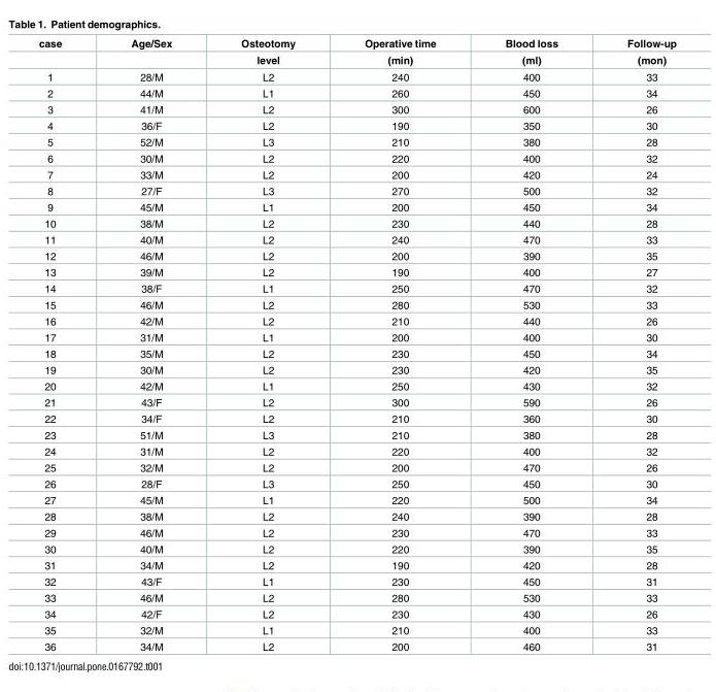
<table><thead><tr><td rowspan="2">case</td><td rowspan="2">Age/Sex</td><td rowspan="2">Osteotomy level</td><td rowspan="2">Operative time (min)</td><td rowspan="2">Blood loss (ml)</td><td rowspan="2">Follow-up (mon)</td></tr><tr></tr></thead><tbody><tr><td>1</td><td>28/M</td><td>L2</td><td>240</td><td>400</td><td>33</td></tr><tr><td>2</td><td>44/M</td><td>L1</td><td>260</td><td>450</td><td>34</td></tr><tr><td>3</td><td>41/M</td><td>L2</td><td>300</td><td>600</td><td>26</td></tr><tr><td>4</td><td>36/F</td><td>L2</td><td>190</td><td>350</td><td>30</td></tr><tr><td>5</td><td>52/M</td><td>L3</td><td>210</td><td>380</td><td>28</td></tr><tr><td>6</td><td>30/M</td><td>L2</td><td>220</td><td>400</td><td>32</td></tr><tr><td>7</td><td>33/M</td><td>L2</td><td>200</td><td>420</td><td>24</td></tr><tr><td>8</td><td>27/F</td><td>L3</td><td>270</td><td>500</td><td>32</td></tr><tr><td>9</td><td>45/M</td><td>L1</td><td>200</td><td>450</td><td>34</td></tr><tr><td>10</td><td>38/M</td><td>L2</td><td>230</td><td>440</td><td>28</td></tr><tr><td>11</td><td>40/M</td><td>L2</td><td>240</td><td>470</td><td>33</td></tr><tr><td>12</td><td>46/M</td><td>L2</td><td>200</td><td>390</td><td>35</td></tr><tr><td>13</td><td>39/M</td><td>L2</td><td>190</td><td>400</td><td>27</td></tr><tr><td>14</td><td>38/F</td><td>L1</td><td>250</td><td>470</td><td>32</td></tr><tr><td>15</td><td>46/M</td><td>L2</td><td>280</td><td>530</td><td>33</td></tr><tr><td>16</td><td>42/M</td><td>L2</td><td>210</td><td>440</td><td>26</td></tr><tr><td>17</td><td>31/M</td><td>L1</td><td>200</td><td>400</td><td>30</td></tr><tr><td>18</td><td>35/M</td><td>L2</td><td>230</td><td>450</td><td>34</td></tr><tr><td>19</td><td>30/M</td><td>L2</td><td>230</td><td>420</td><td>35</td></tr><tr><td>20</td><td>42/M</td><td>L1</td><td>250</td><td>430</td><td>32</td></tr><tr><td>21</td><td>43/F</td><td>L2</td><td>300</td><td>590</td><td>26</td></tr><tr><td>22</td><td>34/F</td><td>L2</td><td>210</td><td>360</td><td>30</td></tr><tr><td>23</td><td>51/M</td><td>L3</td><td>210</td><td>380</td><td>28</td></tr><tr><td>24</td><td>31/M</td><td>L2</td><td>220</td><td>400</td><td>32</td></tr><tr><td>25</td><td>32/M</td><td>L2</td><td>200</td><td>470</td><td>26</td></tr><tr><td>26</td><td>28/F</td><td>L3</td><td>250</td><td>450</td><td>30</td></tr><tr><td>27</td><td>45/M</td><td>L1</td><td>220</td><td>500</td><td>34</td></tr><tr><td>28</td><td>38/M</td><td>L2</td><td>240</td><td>390</td><td>28</td></tr><tr><td>29</td><td>46/M</td><td>L2</td><td>230</td><td>470</td><td>33</td></tr><tr><td>30</td><td>40/M</td><td>L2</td><td>220</td><td>390</td><td>35</td></tr><tr><td>31</td><td>34/M</td><td>L2</td><td>190</td><td>420</td><td>28</td></tr><tr><td>32</td><td>43/F</td><td>L1</td><td>230</td><td>450</td><td>31</td></tr><tr><td>33</td><td>46/M</td><td>L2</td><td>280</td><td>530</td><td>33</td></tr><tr><td>34</td><td>42/F</td><td>L2</td><td>230</td><td>430</td><td>26</td></tr><tr><td>35</td><td>32/M</td><td>L1</td><td>210</td><td>400</td><td>33</td></tr><tr><td>36</td><td>34/M</td><td>L2</td><td>200</td><td>460</td><td>31</td></tr></tbody></table>